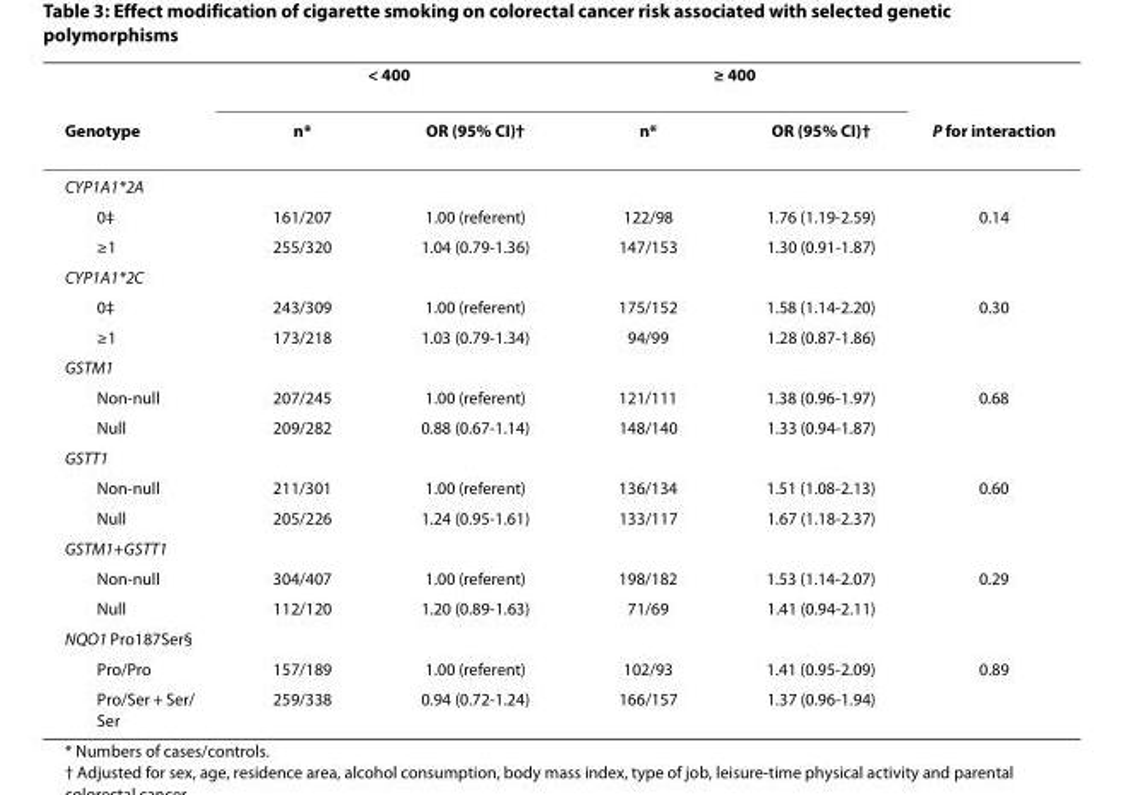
<table><thead><tr><td rowspan="2">Genotype</td><td colspan="2">&lt; 400</td><td colspan="2">≥ 400</td><td rowspan="2">P for interaction</td></tr><tr><td>n*</td><td>OR (95% CI)†</td><td>n*</td><td>OR (95% CI)†</td></tr></thead><tbody><tr><td colspan="6">CYP1A1*2A</td></tr><tr><td>0‡</td><td>161/207</td><td>1.00 (referent)</td><td>122/98</td><td>1.76 (1.19-2.59)</td><td>0.14</td></tr><tr><td>≥1</td><td>255/320</td><td>1.04 (0.79-1.36)</td><td>147/153</td><td>1.30 (0.91-1.87)</td><td></td></tr><tr><td colspan="6">CYP1A1*2C</td></tr><tr><td>0‡</td><td>243/309</td><td>1.00 (referent)</td><td>175/152</td><td>1.58 (1.14-2.20)</td><td>0.30</td></tr><tr><td>≥1</td><td>173/218</td><td>1.03 (0.79-1.34)</td><td>94/99</td><td>1.28 (0.87-1.86)</td><td></td></tr><tr><td colspan="6">GSTM1</td></tr><tr><td>Non-null</td><td>207/245</td><td>1.00 (referent)</td><td>121/111</td><td>1.38 (0.96-1.97)</td><td>0.68</td></tr><tr><td>Null</td><td>209/282</td><td>0.88 (0.67-1.14)</td><td>148/140</td><td>1.33 (0.94-1.87)</td><td></td></tr><tr><td colspan="6">GSTT1</td></tr><tr><td>Non-null</td><td>211/301</td><td>1.00 (referent)</td><td>136/134</td><td>1.51 (1.08-2.13)</td><td>0.60</td></tr><tr><td>Null</td><td>205/226</td><td>1.24 (0.95-1.61)</td><td>133/117</td><td>1.67 (1.18-2.37)</td><td></td></tr><tr><td colspan="6">GSTM1+GSTT1</td></tr><tr><td>Non-null</td><td>304/407</td><td>1.00 (referent)</td><td>198/182</td><td>1.53 (1.14-2.07)</td><td>0.29</td></tr><tr><td>Null</td><td>112/120</td><td>1.20 (0.89-1.63)</td><td>71/69</td><td>1.41 (0.94-2.11)</td><td></td></tr><tr><td colspan="6">NQO1 Pro187Ser§</td></tr><tr><td>Pro/Pro</td><td>157/189</td><td>1.00 (referent)</td><td>102/93</td><td>1.41 (0.95-2.09)</td><td>0.89</td></tr><tr><td>Pro/Ser + Ser/ Ser</td><td>259/338</td><td>0.94 (0.72-1.24)</td><td>166/157</td><td>1.37 (0.96-1.94)</td><td></td></tr></tbody></table>